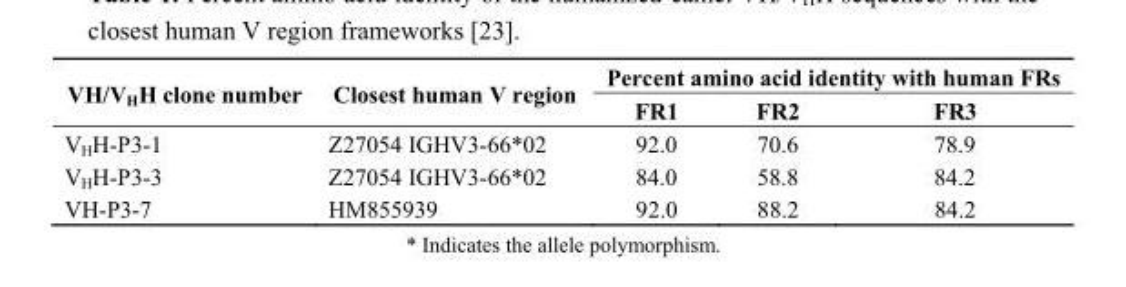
<table><thead><tr><td rowspan="2">VH/V<sub>H</sub>H clone number</td><td rowspan="2">Closest human V region</td><td colspan="3">Percent amino acid identity with human FRs</td></tr><tr><td>FR1</td><td>FR2</td><td>FR3</td></tr></thead><tbody><tr><td>V<sub>H</sub>H-P3-1</td><td>Z27054 IGHV3-66*02</td><td>92.0</td><td>70.6</td><td>78.9</td></tr><tr><td>V<sub>H</sub>H-P3-3</td><td>Z27054 IGHV3-66*02</td><td>84.0</td><td>58.8</td><td>84.2</td></tr><tr><td>VH-P3-7</td><td>HM855939</td><td>92.0</td><td>88.2</td><td>84.2</td></tr></tbody></table>